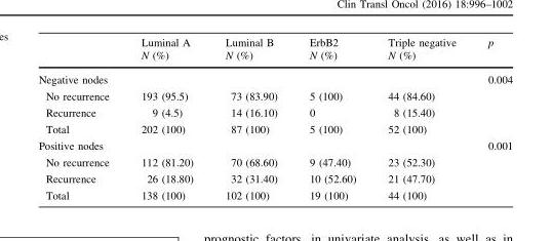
<table><thead><tr><td rowspan="2"></td><td rowspan="2">Luminal A N (%)</td><td rowspan="2">Luminal B N (%)</td><td rowspan="2">ErbB2 N (%)</td><td rowspan="2">Triple negative N (%)</td><td rowspan="2">p</td></tr><tr></tr></thead><tbody><tr><td colspan="5">Negative nodes</td><td rowspan="4">0.004</td></tr><tr><td>No recurrence</td><td>193 (95.5)</td><td>73 (83.90)</td><td>5 (100)</td><td>44 (84.60)</td></tr><tr><td>Recurrence</td><td>9 (4.5)</td><td>14 (16.10)</td><td>0</td><td>8 (15.40)</td></tr><tr><td>Total</td><td>202 (100)</td><td>87 (100)</td><td>5 (100)</td><td>52 (100)</td></tr><tr><td colspan="5">Positive nodes</td><td rowspan="4">0.001</td></tr><tr><td>No recurrence</td><td>112 (81.20)</td><td>70 (68.60)</td><td>9 (47.40)</td><td>23 (52.30)</td></tr><tr><td>Recurrence</td><td>26 (18.80)</td><td>32 (31.40)</td><td>10 (52.60)</td><td>21 (47.70)</td></tr><tr><td>Total</td><td>138 (100)</td><td>102 (100)</td><td>19 (100)</td><td>44 (100)</td></tr></tbody></table>